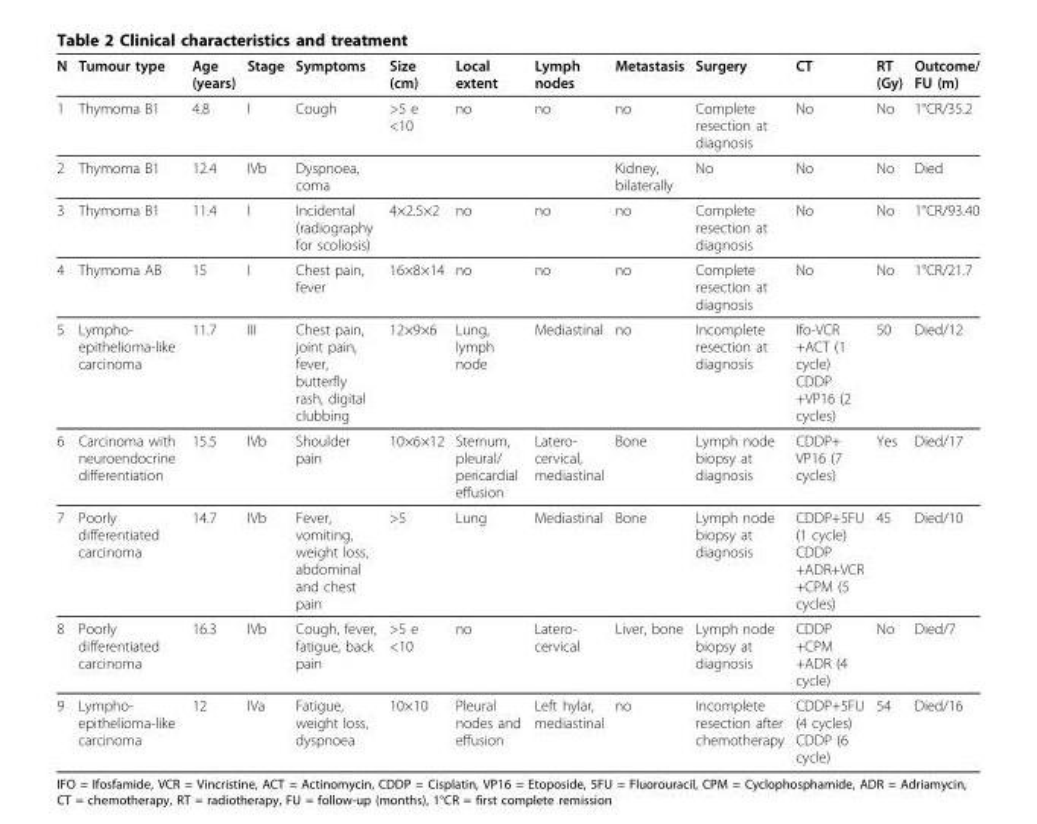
<table><thead><tr><td>N</td><td>Tumour type</td><td>Age (years)</td><td>Stage</td><td>Symptoms</td><td>Size (cm)</td><td>Local extent</td><td>Lymph nodes</td><td>Metastasis</td><td>Surgery</td><td>CT</td><td>RT (Gy)</td><td>Outcome/ FU (m)</td></tr></thead><tbody><tr><td>1</td><td>Thymoma B1</td><td>4.8</td><td>I</td><td>Cough</td><td>&gt;5 e &lt;10</td><td>no</td><td>no</td><td>no</td><td>Complete resection at diagnosis</td><td>No</td><td>No</td><td>1°CR/35.2</td></tr><tr><td>2</td><td>Thymoma B1</td><td>12.4</td><td>IVb</td><td>Dyspnoea, coma</td><td></td><td></td><td></td><td>Kidney, bilaterally</td><td>No</td><td>No</td><td>No</td><td>Died</td></tr><tr><td>3</td><td>Thymoma B1</td><td>11.4</td><td>I</td><td>Incidental (radiography for scoliosis)</td><td>4×2.5×2</td><td>no</td><td>no</td><td>no</td><td>Complete resection at diagnosis</td><td>No</td><td>No</td><td>1°CR/93.40</td></tr><tr><td>4</td><td>Thymoma AB</td><td>15</td><td>I</td><td>Chest pain, fever</td><td>16×8×14</td><td>no</td><td>no</td><td>no</td><td>Complete resection at diagnosis</td><td>No</td><td>No</td><td>1°CR/21.7</td></tr><tr><td>5</td><td>Lympho- epithelioma-like carcinoma</td><td>11.7</td><td>III</td><td>Chest pain, joint pain, fever, butterfly rash, digital clubbing</td><td>12×9×6</td><td>Lung, lymph node</td><td>Mediastinal</td><td>no</td><td>Incomplete resection at diagnosis</td><td>Ifo-VCR +ACT (1 cycle) CDDP +VP16 (2 cycles)</td><td>50</td><td>Died/12</td></tr><tr><td>6</td><td>Carcinoma with neuroendocrine differentiation</td><td>15.5</td><td>IVb</td><td>Shoulder pain</td><td>10×6×12</td><td>Sternum, pleural/ pericardial effusion</td><td>Latero- cervical, mediastinal</td><td>Bone</td><td>Lymph node biopsy at diagnosis</td><td>CDDP+ VP16 (7 cycles)</td><td>Yes</td><td>Died/17</td></tr><tr><td>7</td><td>Poorly differentiated carcinoma</td><td>14.7</td><td>IVb</td><td>Fever, vomiting, weight loss, abdominal and chest pain</td><td>&gt;5</td><td>Lung</td><td>Mediastinal</td><td>Bone</td><td>Lymph node biopsy at diagnosis</td><td>CDDP+5FU (1 cycle) CDDP +ADR+VCR +CPM (5 cycles)</td><td>45</td><td>Died/10</td></tr><tr><td>8</td><td>Poorly differentiated carcinoma</td><td>16.3</td><td>IVb</td><td>Cough, fever, fatigue, back pain</td><td>&gt;5 e &lt;10</td><td>no</td><td>Latero- cervical</td><td>Liver, bone</td><td>Lymph node biopsy at diagnosis</td><td>CDDP +CPM +ADR (4 cycle)</td><td>No</td><td>Died/7</td></tr><tr><td>9</td><td>Lympho- epithelioma-like carcinoma</td><td>12</td><td>IVa</td><td>Fatigue, weight loss, dyspnoea</td><td>10×10</td><td>Pleural nodes and effusion</td><td>Left hylar, mediastinal</td><td>no</td><td>Incomplete resection after chemotherapy</td><td>CDDP+5FU (4 cycles) CDDP (6 cycle)</td><td>54</td><td>Died/16</td></tr></tbody></table>